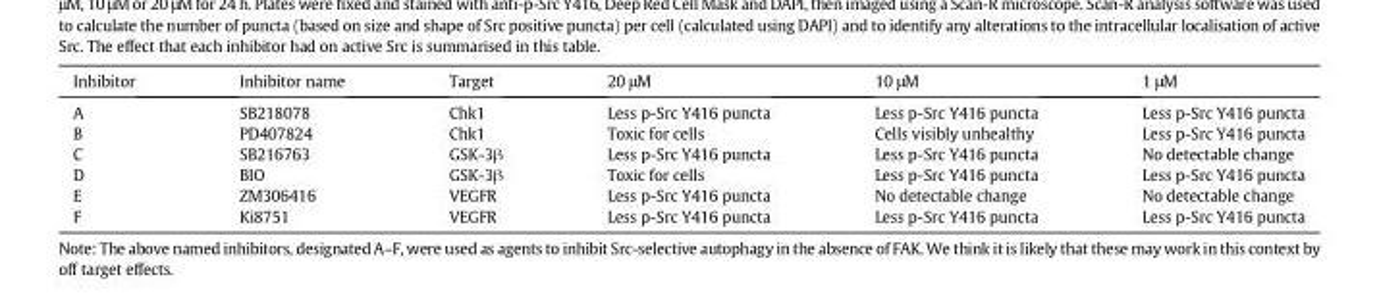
<table><thead><tr><td>Inhibitor</td><td>Inhibitor name</td><td>Target</td><td>20 μM</td><td>10 μM</td><td>1 μM</td></tr></thead><tbody><tr><td>A</td><td>SB218078</td><td>Chk1</td><td>Less p-Src Y416 puncta</td><td>Less p-Src Y416 puncta</td><td>Less p-Src Y416 puncta</td></tr><tr><td>B</td><td>PD407824</td><td>Chk1</td><td>Toxic for cells</td><td>Cells visibly unhealthy</td><td>Less p-Src Y416 puncta</td></tr><tr><td>C</td><td>SB216763</td><td>GSK-3β</td><td>Less p-Src Y416 puncta</td><td>Less p-Src Y416 puncta</td><td>No detectable change</td></tr><tr><td>D</td><td>BIO</td><td>GSK-3β</td><td>Toxic for cells</td><td>Less p-Src Y416 puncta</td><td>Less p-Src Y416 puncta</td></tr><tr><td>E</td><td>ZM306416</td><td>VEGFR</td><td>Less p-Src Y416 puncta</td><td>No detectable change</td><td>No detectable change</td></tr><tr><td>F</td><td>Ki8751</td><td>VEGFR</td><td>Less p-Src Y416 puncta</td><td>Less p-Src Y416 puncta</td><td>Less p-Src Y416 puncta</td></tr></tbody></table>